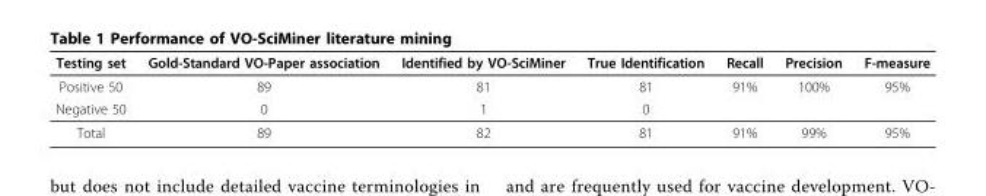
<table><thead><tr><td>Testing set</td><td>Gold-Standard VO-Paper association</td><td>Identified by VO-SciMiner</td><td>True Identification</td><td>Recall</td><td>Precision</td><td>F-measure</td></tr></thead><tbody><tr><td>Positive 50</td><td>89</td><td>81</td><td>81</td><td>91%</td><td>100%</td><td>95%</td></tr><tr><td>Negative 50</td><td>0</td><td>1</td><td>0</td><td></td><td></td><td></td></tr><tr><td>Total</td><td>89</td><td>82</td><td>81</td><td>91%</td><td>99%</td><td>95%</td></tr></tbody></table>